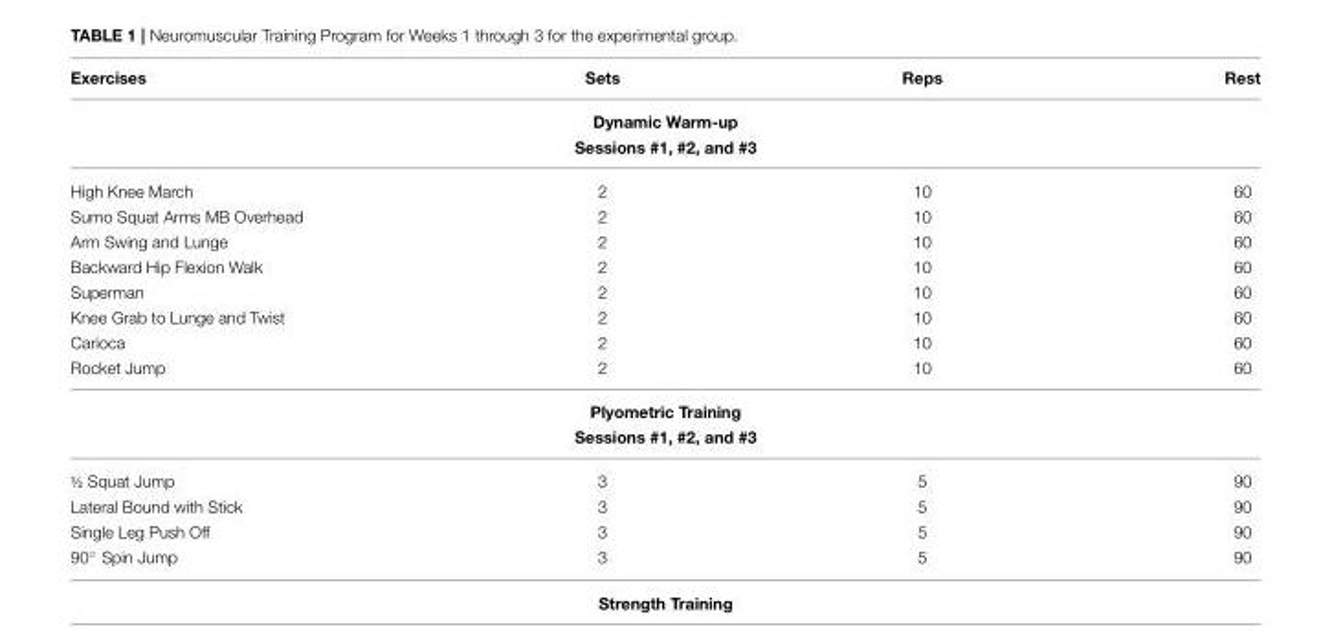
<table><thead><tr><td>Exercises</td><td>Sets</td><td>Reps</td><td>Rest</td></tr></thead><tbody><tr><td></td><td>Dynamic Warm-up</td><td></td><td></td></tr><tr><td></td><td>Sessions #1, #2, and #3</td><td></td><td></td></tr><tr><td>High Knee March</td><td>2</td><td>10</td><td>60</td></tr><tr><td>Sumo Squat Arms MB Overhead</td><td>2</td><td>10</td><td>60</td></tr><tr><td>Arm Swing and Lunge</td><td>2</td><td>10</td><td>60</td></tr><tr><td>Backward Hip Flexion Walk</td><td>2</td><td>10</td><td>60</td></tr><tr><td>Superman</td><td>2</td><td>10</td><td>60</td></tr><tr><td>Knee Grab to Lunge and Twist</td><td>2</td><td>10</td><td>60</td></tr><tr><td>Carioca</td><td>2</td><td>10</td><td>60</td></tr><tr><td rowspan="3">Rocket Jump</td><td>2</td><td>10</td><td>60</td></tr><tr><td>Plyometric Training</td><td></td><td></td></tr><tr><td>Sessions #1, #2, and #3</td><td></td><td></td></tr><tr><td>½ Squat Jump</td><td>3</td><td>5</td><td>90</td></tr><tr><td>Lateral Bound with Stick</td><td>3</td><td>5</td><td>90</td></tr><tr><td>Single Leg Push Off</td><td>3</td><td>5</td><td>90</td></tr><tr><td>90◦ Spin Jump</td><td>3</td><td>5</td><td>90</td></tr></tbody></table>